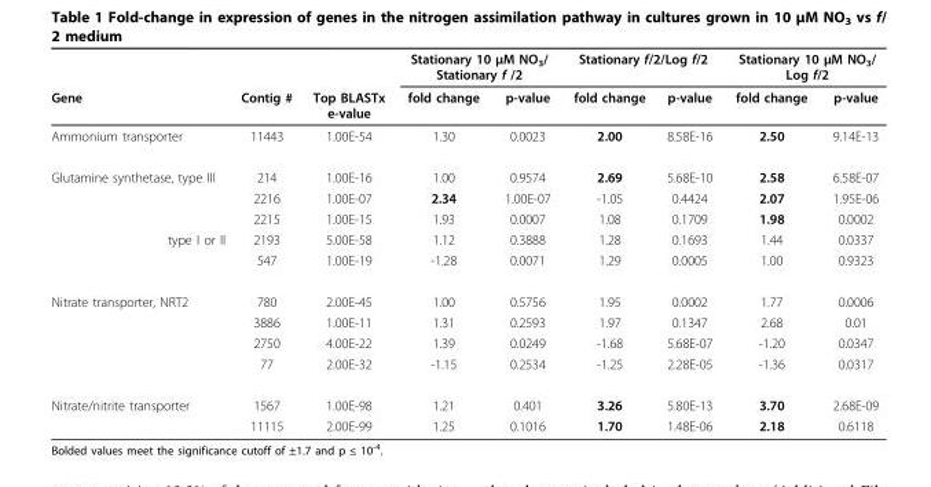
<table><thead><tr><td rowspan="2">Gene</td><td rowspan="2">Contig #</td><td rowspan="2">Top BLASTx e-value</td><td colspan="2">Stationary 10 μM NO<sub>3</sub>/ Stationary f /2</td><td colspan="2">Stationary f/2/Log f/2</td><td colspan="2">Stationary 10 μM NO<sub>3</sub>/ Log f/2</td></tr><tr><td>fold change</td><td>p-value</td><td>fold change</td><td>p-value</td><td>fold change</td><td>p-value</td></tr></thead><tbody><tr><td>Ammonium transporter</td><td>11443</td><td>1.00E-54</td><td>1.30</td><td>0.0023</td><td>2.00</td><td>8.58E-16</td><td>2.50</td><td>9.14E-13</td></tr><tr><td rowspan="3">Glutamine synthetase, type III</td><td>214</td><td>1.00E-16</td><td>1.00</td><td>0.9574</td><td>2.69</td><td>5.68E-10</td><td>2.58</td><td>6.58E-07</td></tr><tr><td>2216</td><td>1.00E-07</td><td>2.34</td><td>1.00E-07</td><td>-1.05</td><td>0.4424</td><td>2.07</td><td>1.95E-06</td></tr><tr><td>2215</td><td>1.00E-15</td><td>1.93</td><td>0.0007</td><td>1.08</td><td>0.1709</td><td>1.98</td><td>0.0002</td></tr><tr><td rowspan="2">type I or II</td><td>2193</td><td>5.00E-58</td><td>1.12</td><td>0.3888</td><td>1.28</td><td>0.1693</td><td>1.44</td><td>0.0337</td></tr><tr><td>547</td><td>1.00E-19</td><td>-1.28</td><td>0.0071</td><td>1.29</td><td>0.0005</td><td>1.00</td><td>0.9323</td></tr><tr><td rowspan="4">Nitrate transporter, NRT2</td><td>780</td><td>2.00E-45</td><td>1.00</td><td>0.5756</td><td>1.95</td><td>0.0002</td><td>1.77</td><td>0.0006</td></tr><tr><td>3886</td><td>1.00E-11</td><td>1.31</td><td>0.2593</td><td>1.97</td><td>0.1347</td><td>2.68</td><td>0.01</td></tr><tr><td>2750</td><td>4.00E-22</td><td>1.39</td><td>0.0249</td><td>-1.68</td><td>5.68E-07</td><td>-1.20</td><td>0.0347</td></tr><tr><td>77</td><td>2.00E-32</td><td>-1.15</td><td>0.2534</td><td>-1.25</td><td>2.28E-05</td><td>-1.36</td><td>0.0317</td></tr><tr><td rowspan="2">Nitrate/nitrite transporter</td><td>1567</td><td>1.00E-98</td><td>1.21</td><td>0.401</td><td>3.26</td><td>5.80E-13</td><td>3.70</td><td>2.68E-09</td></tr><tr><td>11115</td><td>2.00E-99</td><td>1.25</td><td>0.1016</td><td>1.70</td><td>1.48E-06</td><td>2.18</td><td>0.6118</td></tr></tbody></table>